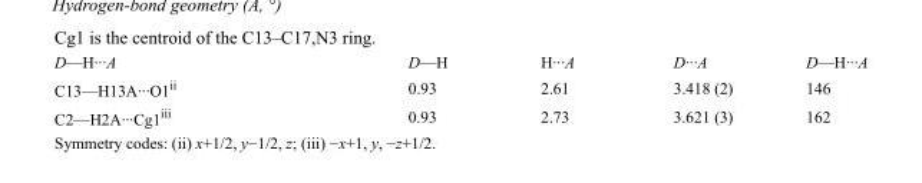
<table><tbody><tr><td>D—H···A</td><td>D—H</td><td>H···A</td><td>D···A</td><td>D—H···A</td></tr><tr><td>C13—H13A···O1<sup>ii</sup></td><td>0.93</td><td>2.61</td><td>3.418 (2)</td><td>146</td></tr><tr><td>C2—H2A···Cg1<sup>iii</sup></td><td>0.93</td><td>2.73</td><td>3.621 (3)</td><td>162</td></tr></tbody></table>